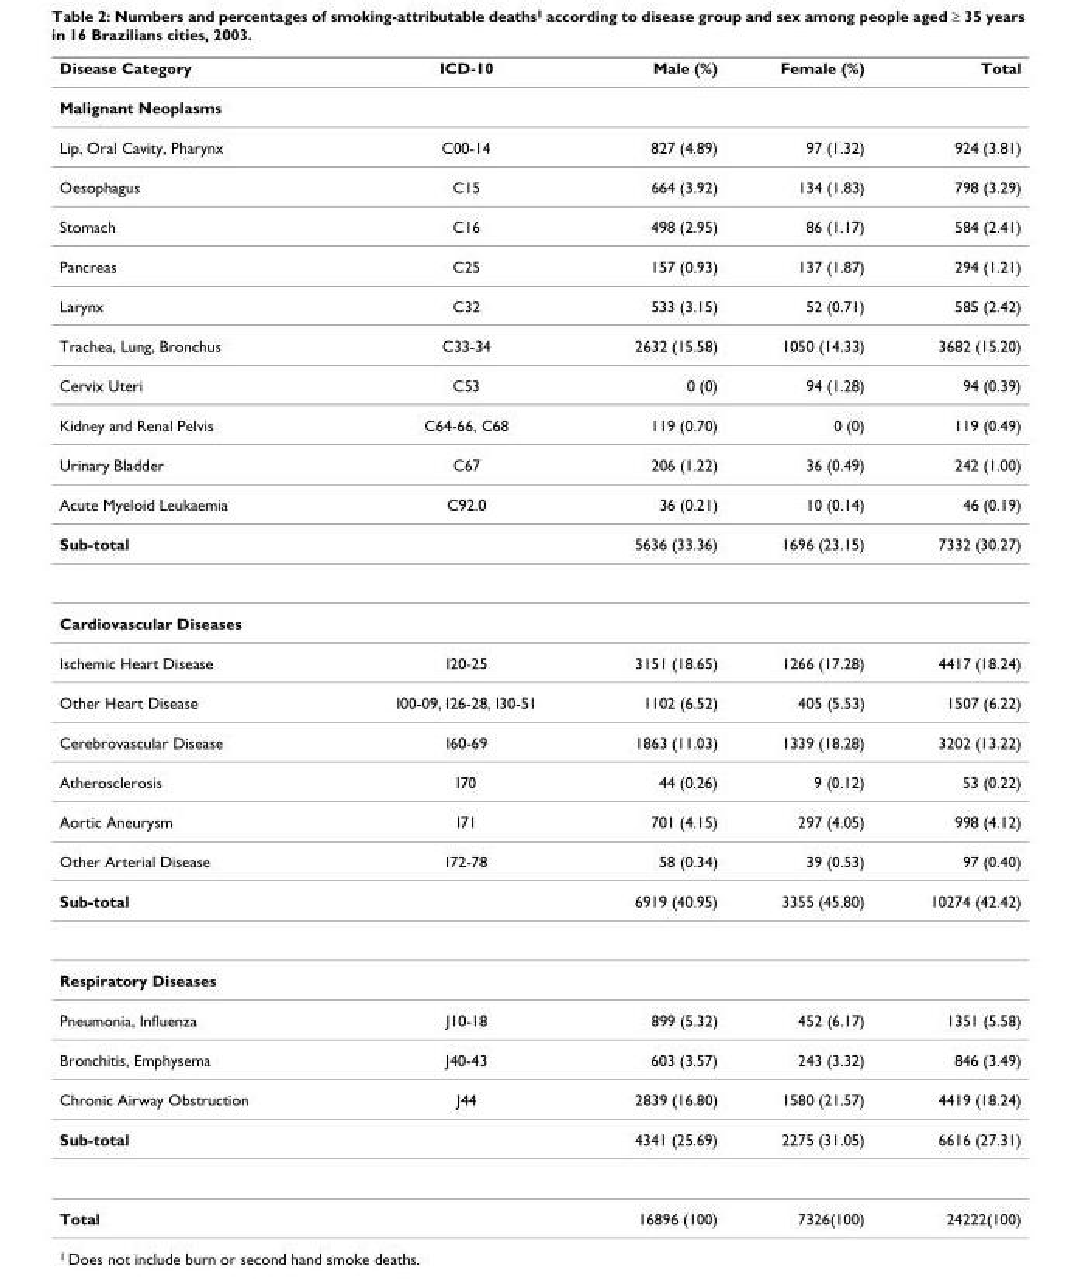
<table><thead><tr><td>Disease Category</td><td>ICD-10</td><td>Male (%)</td><td>Female (%)</td><td>Total</td></tr></thead><tbody><tr><td colspan="5">Malignant Neoplasms</td></tr><tr><td>Lip, Oral Cavity, Pharynx</td><td>C00-14</td><td>827 (4.89)</td><td>97 (1.32)</td><td>924 (3.81)</td></tr><tr><td>Oesophagus</td><td>C15</td><td>664 (3.92)</td><td>134 (1.83)</td><td>798 (3.29)</td></tr><tr><td>Stomach</td><td>C16</td><td>498 (2.95)</td><td>86 (1.17)</td><td>584 (2.41)</td></tr><tr><td>Pancreas</td><td>C25</td><td>157 (0.93)</td><td>137 (1.87)</td><td>294 (1.21)</td></tr><tr><td>Larynx</td><td>C32</td><td>533 (3.15)</td><td>52 (0.71)</td><td>585 (2.42)</td></tr><tr><td>Trachea, Lung, Bronchus</td><td>C33-34</td><td>2632 (15.58)</td><td>1050 (14.33)</td><td>3682 (15.20)</td></tr><tr><td>Cervix Uteri</td><td>C53</td><td>0 (0)</td><td>94 (1.28)</td><td>94 (0.39)</td></tr><tr><td>Kidney and Renal Pelvis</td><td>C64-66, C68</td><td>119 (0.70)</td><td>0 (0)</td><td>119 (0.49)</td></tr><tr><td>Urinary Bladder</td><td>C67</td><td>206 (1.22)</td><td>36 (0.49)</td><td>242 (1.00)</td></tr><tr><td>Acute Myeloid Leukaemia</td><td>C92.0</td><td>36 (0.21)</td><td>10 (0.14)</td><td>46 (0.19)</td></tr><tr><td>Sub-total</td><td></td><td>5636 (33.36)</td><td>1696 (23.15)</td><td>7332 (30.27)</td></tr><tr><td colspan="5">Cardiovascular Diseases</td></tr><tr><td>Ischemic Heart Disease</td><td>I20-25</td><td>3151 (18.65)</td><td>1266 (17.28)</td><td>4417 (18.24)</td></tr><tr><td>Other Heart Disease</td><td>I00-09, I26-28, I30-51</td><td>1102 (6.52)</td><td>405 (5.53)</td><td>1507 (6.22)</td></tr><tr><td>Cerebrovascular Disease</td><td>I60-69</td><td>1863 (11.03)</td><td>1339 (18.28)</td><td>3202 (13.22)</td></tr><tr><td>Atherosclerosis</td><td>I70</td><td>44 (0.26)</td><td>9 (0.12)</td><td>53 (0.22)</td></tr><tr><td>Aortic Aneurysm</td><td>I71</td><td>701 (4.15)</td><td>297 (4.05)</td><td>998 (4.12)</td></tr><tr><td>Other Arterial Disease</td><td>I72-78</td><td>58 (0.34)</td><td>39 (0.53)</td><td>97 (0.40)</td></tr><tr><td>Sub-total</td><td></td><td>6919 (40.95)</td><td>3355 (45.80)</td><td>10274 (42.42)</td></tr><tr><td colspan="5">Respiratory Diseases</td></tr><tr><td>Pneumonia, Influenza</td><td>J10-18</td><td>899 (5.32)</td><td>452 (6.17)</td><td>1351 (5.58)</td></tr><tr><td>Bronchitis, Emphysema</td><td>J40-43</td><td>603 (3.57)</td><td>243 (3.32)</td><td>846 (3.49)</td></tr><tr><td>Chronic Airway Obstruction</td><td>J44</td><td>2839 (16.80)</td><td>1580 (21.57)</td><td>4419 (18.24)</td></tr><tr><td>Sub-total</td><td></td><td>4341 (25.69)</td><td>2275 (31.05)</td><td>6616 (27.31)</td></tr><tr><td>Total</td><td></td><td>16896 (100)</td><td>7326(100)</td><td>24222(100)</td></tr></tbody></table>